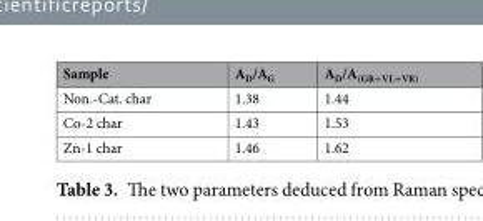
<table><thead><tr><td>Sample</td><td>A<sub>D</sub>/A<sub>G</sub></td><td>A<sub>D</sub>/A<sub>(GR+VL+VR)</sub></td></tr></thead><tbody><tr><td>Non.-Cat. char</td><td>1.38</td><td>1.44</td></tr><tr><td>Co-2 char</td><td>1.43</td><td>1.53</td></tr><tr><td>Zn-1 char</td><td>1.46</td><td>1.62</td></tr></tbody></table>